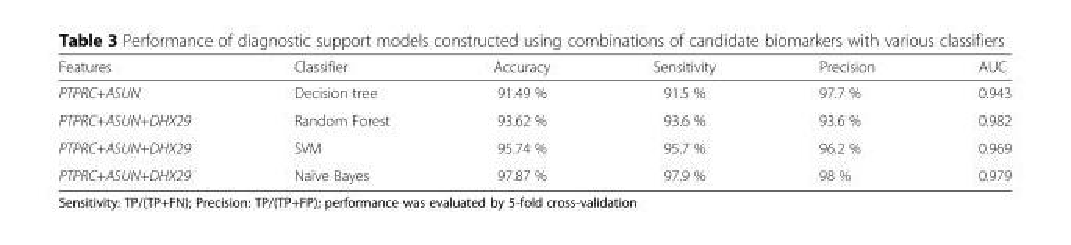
<table><thead><tr><td>Features</td><td>Classifier</td><td>Accuracy</td><td>Sensitivity</td><td>Precision</td><td>AUC</td></tr></thead><tbody><tr><td>PTPRC+ASUN</td><td>Decision tree</td><td>91.49 %</td><td>91.5 %</td><td>97.7 %</td><td>0.943</td></tr><tr><td>PTPRC+ASUN+DHX29</td><td>Random Forest</td><td>93.62 %</td><td>93.6 %</td><td>93.6 %</td><td>0.982</td></tr><tr><td>PTPRC+ASUN+DHX29</td><td>SVM</td><td>95.74 %</td><td>95.7 %</td><td>96.2 %</td><td>0.969</td></tr><tr><td>PTPRC+ASUN+DHX29</td><td>Naïve Bayes</td><td>97.87 %</td><td>97.9 %</td><td>98 %</td><td>0.979</td></tr></tbody></table>